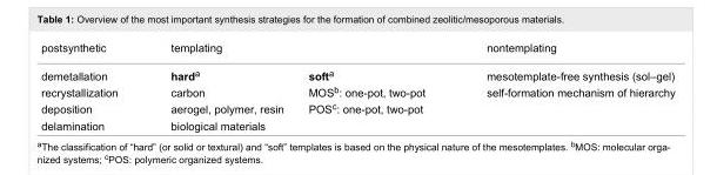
<table><tbody><tr><td>postsynthetic</td><td colspan="2">templating</td><td>nontemplating</td></tr><tr><td>demetallation</td><td>hard<sup>a</sup></td><td>soft<sup>a</sup></td><td>mesotemplate-free synthesis (sol–gel)</td></tr><tr><td>recrystallization</td><td>carbon</td><td>MOS<sup>b</sup>: one-pot, two-pot</td><td>self-formation mechanism of hierarchy</td></tr><tr><td>deposition</td><td>aerogel, polymer, resin</td><td>POS<sup>c</sup>: one-pot, two-pot</td><td></td></tr><tr><td>delamination</td><td>biological materials</td><td></td><td></td></tr></tbody></table>